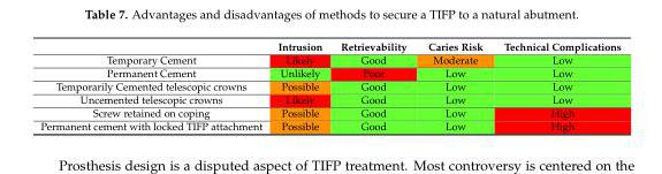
<table><thead><tr><td></td><td>Intrusion</td><td>Retrievability</td><td>Caries Risk</td><td>Technical Complications</td></tr></thead><tbody><tr><td>Temporary Cement</td><td>Likely</td><td>Good</td><td>Moderate</td><td>Low</td></tr><tr><td>Permanent Cement</td><td>Unlikely</td><td>Poor</td><td>Low</td><td>Low</td></tr><tr><td>Temporarily Cemented telescopic crowns</td><td>Possible</td><td>Good</td><td>Low</td><td>Low</td></tr><tr><td>Uncemented telescopic crowns</td><td>Likely</td><td>Good</td><td>Low</td><td>Low</td></tr><tr><td>Screw retained on coping</td><td>Possible</td><td>Good</td><td>Low</td><td>High</td></tr><tr><td>Permanent cement with locked TIFP attachment</td><td>Possible</td><td>Good</td><td>Low</td><td>High</td></tr></tbody></table>